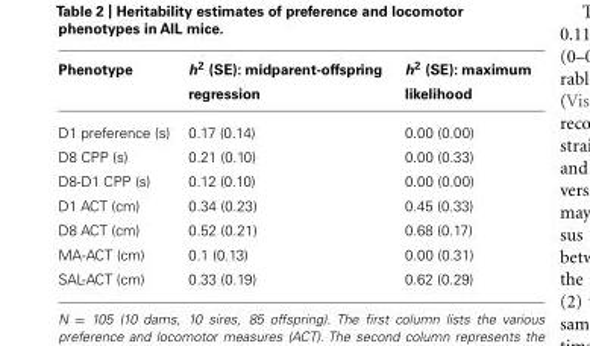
<table><thead><tr><td>Phenotype</td><td>h2 (SE): midparent-offspring regression</td><td>h2 (SE): maximum likelihood</td></tr></thead><tbody><tr><td>D1 preference (s)</td><td>0.17 (0.14)</td><td>0.00 (0.00)</td></tr><tr><td>D8 CPP (s)</td><td>0.21 (0.10)</td><td>0.00 (0.33)</td></tr><tr><td>D8-D1 CPP (s)</td><td>0.12 (0.10)</td><td>0.00 (0.00)</td></tr><tr><td>D1 ACT (cm)</td><td>0.34 (0.23)</td><td>0.45 (0.33)</td></tr><tr><td>D8 ACT (cm)</td><td>0.52 (0.21)</td><td>0.68 (0.17)</td></tr><tr><td>MA-ACT (cm)</td><td>0.1 (0.13)</td><td>0.00 (0.31)</td></tr><tr><td>SAL-ACT (cm)</td><td>0.33 (0.19)</td><td>0.62 (0.29)</td></tr></tbody></table>